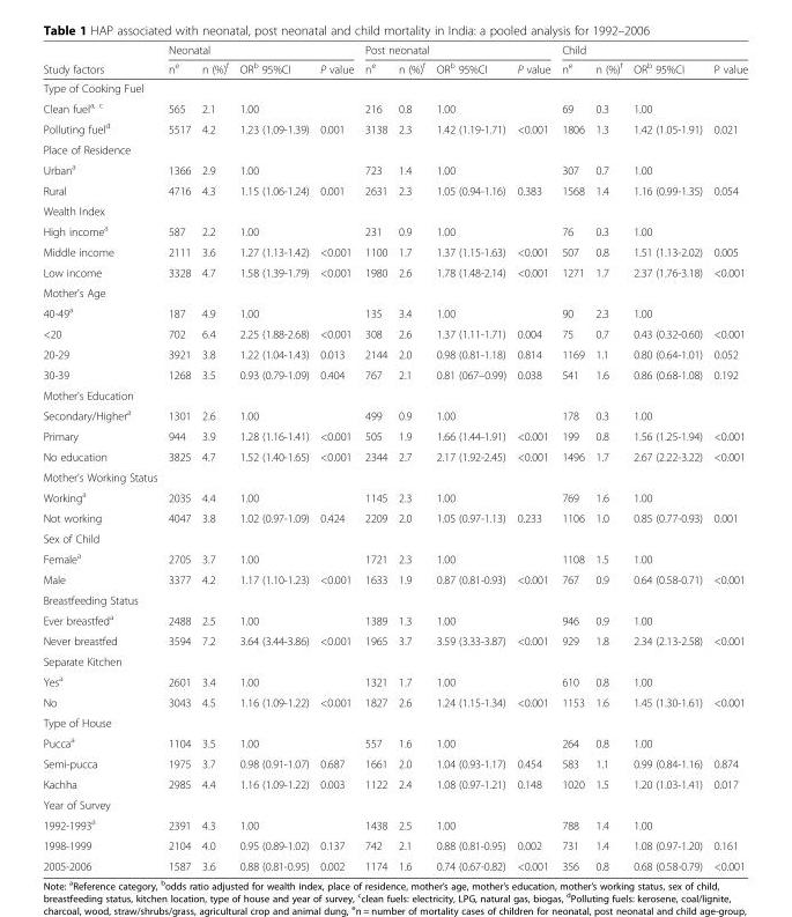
<table><thead><tr><td rowspan="2">Study factors</td><td colspan="4">Neonatal</td><td colspan="4">Post neonatal</td><td colspan="4">Child</td></tr><tr><td>n<sup>e</sup></td><td>n (%)<sup>f</sup></td><td>OR<sup>b</sup> 95%CI</td><td>P value</td><td>n<sup>e</sup></td><td>n (%)<sup>f</sup></td><td>OR<sup>b</sup> 95%CI</td><td>P value</td><td>n<sup>e</sup></td><td>n (%)<sup>f</sup></td><td>OR<sup>b</sup> 95%CI</td><td>P value</td></tr></thead><tbody><tr><td colspan="13">Type of Cooking Fuel</td></tr><tr><td>Clean fuel<sup>a, c</sup></td><td>565</td><td>2.1</td><td>1.00</td><td></td><td>216</td><td>0.8</td><td>1.00</td><td></td><td>69</td><td>0.3</td><td>1.00</td><td></td></tr><tr><td>Polluting fuel<sup>d</sup></td><td>5517</td><td>4.2</td><td>1.23 (1.09-1.39)</td><td>0.001</td><td>3138</td><td>2.3</td><td>1.42 (1.19-1.71)</td><td>&lt;0.001</td><td>1806</td><td>1.3</td><td>1.42 (1.05-1.91)</td><td>0.021</td></tr><tr><td colspan="13">Place of Residence</td></tr><tr><td>Urban<sup>a</sup></td><td>1366</td><td>2.9</td><td>1.00</td><td></td><td>723</td><td>1.4</td><td>1.00</td><td></td><td>307</td><td>0.7</td><td>1.00</td><td></td></tr><tr><td>Rural</td><td>4716</td><td>4.3</td><td>1.15 (1.06-1.24)</td><td>0.001</td><td>2631</td><td>2.3</td><td>1.05 (0.94-1.16)</td><td>0.383</td><td>1568</td><td>1.4</td><td>1.16 (0.99-1.35)</td><td>0.054</td></tr><tr><td colspan="13">Wealth Index</td></tr><tr><td>High income<sup>a</sup></td><td>587</td><td>2.2</td><td>1.00</td><td></td><td>231</td><td>0.9</td><td>1.00</td><td></td><td>76</td><td>0.3</td><td>1.00</td><td></td></tr><tr><td>Middle income</td><td>2111</td><td>3.6</td><td>1.27 (1.13-1.42)</td><td>&lt;0.001</td><td>1100</td><td>1.7</td><td>1.37 (1.15-1.63)</td><td>&lt;0.001</td><td>507</td><td>0.8</td><td>1.51 (1.13-2.02)</td><td>0.005</td></tr><tr><td>Low income</td><td>3328</td><td>4.7</td><td>1.58 (1.39-1.79)</td><td>&lt;0.001</td><td>1980</td><td>2.6</td><td>1.78 (1.48-2.14)</td><td>&lt;0.001</td><td>1271</td><td>1.7</td><td>2.37 (1.76-3.18)</td><td>&lt;0.001</td></tr><tr><td colspan="13">Mother&#x27;s Age</td></tr><tr><td>40-49<sup>a</sup></td><td>187</td><td>4.9</td><td>1.00</td><td></td><td>135</td><td>3.4</td><td>1.00</td><td></td><td>90</td><td>2.3</td><td>1.00</td><td></td></tr><tr><td>&lt;20</td><td>702</td><td>6.4</td><td>2.25 (1.88-2.68)</td><td>&lt;0.001</td><td>308</td><td>2.6</td><td>1.37 (1.11-1.71)</td><td>0.004</td><td>75</td><td>0.7</td><td>0.43 (0.32-0.60)</td><td>&lt;0.001</td></tr><tr><td>20-29</td><td>3921</td><td>3.8</td><td>1.22 (1.04-1.43)</td><td>0.013</td><td>2144</td><td>2.0</td><td>0.98 (0.81-1.18)</td><td>0.814</td><td>1169</td><td>1.1</td><td>0.80 (0.64-1.01)</td><td>0.052</td></tr><tr><td>30-39</td><td>1268</td><td>3.5</td><td>0.93 (0.79-1.09)</td><td>0.404</td><td>767</td><td>2.1</td><td>0.81 (067–0.99)</td><td>0.038</td><td>541</td><td>1.6</td><td>0.86 (0.68-1.08)</td><td>0.192</td></tr><tr><td colspan="13">Mother&#x27;s Education</td></tr><tr><td>Secondary/Higher<sup>a</sup></td><td>1301</td><td>2.6</td><td>1.00</td><td></td><td>499</td><td>0.9</td><td>1.00</td><td></td><td>178</td><td>0.3</td><td>1.00</td><td></td></tr><tr><td>Primary</td><td>944</td><td>3.9</td><td>1.28 (1.16-1.41)</td><td>&lt;0.001</td><td>505</td><td>1.9</td><td>1.66 (1.44-1.91)</td><td>&lt;0.001</td><td>199</td><td>0.8</td><td>1.56 (1.25-1.94)</td><td>&lt;0.001</td></tr><tr><td>No education</td><td>3825</td><td>4.7</td><td>1.52 (1.40-1.65)</td><td>&lt;0.001</td><td>2344</td><td>2.7</td><td>2.17 (1.92-2.45)</td><td>&lt;0.001</td><td>1496</td><td>1.7</td><td>2.67 (2.22-3.22)</td><td>&lt;0.001</td></tr><tr><td colspan="13">Mother&#x27;s Working Status</td></tr><tr><td>Working<sup>a</sup></td><td>2035</td><td>4.4</td><td>1.00</td><td></td><td>1145</td><td>2.3</td><td>1.00</td><td></td><td>769</td><td>1.6</td><td>1.00</td><td></td></tr><tr><td>Not working</td><td>4047</td><td>3.8</td><td>1.02 (0.97-1.09)</td><td>0.424</td><td>2209</td><td>2.0</td><td>1.05 (0.97-1.13)</td><td>0.233</td><td>1106</td><td>1.0</td><td>0.85 (0.77-0.93)</td><td>0.001</td></tr><tr><td colspan="13">Sex of Child</td></tr><tr><td>Female<sup>a</sup></td><td>2705</td><td>3.7</td><td>1.00</td><td></td><td>1721</td><td>2.3</td><td>1.00</td><td></td><td>1108</td><td>1.5</td><td>1.00</td><td></td></tr><tr><td>Male</td><td>3377</td><td>4.2</td><td>1.17 (1.10-1.23)</td><td>&lt;0.001</td><td>1633</td><td>1.9</td><td>0.87 (0.81-0.93)</td><td>&lt;0.001</td><td>767</td><td>0.9</td><td>0.64 (0.58-0.71)</td><td>&lt;0.001</td></tr><tr><td colspan="13">Breastfeeding Status</td></tr><tr><td>Ever breastfed<sup>a</sup></td><td>2488</td><td>2.5</td><td>1.00</td><td></td><td>1389</td><td>1.3</td><td>1.00</td><td></td><td>946</td><td>0.9</td><td>1.00</td><td></td></tr><tr><td>Never breastfed</td><td>3594</td><td>7.2</td><td>3.64 (3.44-3.86)</td><td>&lt;0.001</td><td>1965</td><td>3.7</td><td>3.59 (3.33-3.87)</td><td>&lt;0.001</td><td>929</td><td>1.8</td><td>2.34 (2.13-2.58)</td><td>&lt;0.001</td></tr><tr><td colspan="13">Separate Kitchen</td></tr><tr><td>Yes<sup>a</sup></td><td>2601</td><td>3.4</td><td>1.00</td><td></td><td>1321</td><td>1.7</td><td>1.00</td><td></td><td>610</td><td>0.8</td><td>1.00</td><td></td></tr><tr><td>No</td><td>3043</td><td>4.5</td><td>1.16 (1.09-1.22)</td><td>&lt;0.001</td><td>1827</td><td>2.6</td><td>1.24 (1.15-1.34)</td><td>&lt;0.001</td><td>1153</td><td>1.6</td><td>1.45 (1.30-1.61)</td><td>&lt;0.001</td></tr><tr><td colspan="13">Type of House</td></tr><tr><td>Pucca<sup>a</sup></td><td>1104</td><td>3.5</td><td>1.00</td><td></td><td>557</td><td>1.6</td><td>1.00</td><td></td><td>264</td><td>0.8</td><td>1.00</td><td></td></tr><tr><td>Semi-pucca</td><td>1975</td><td>3.7</td><td>0.98 (0.91-1.07)</td><td>0.687</td><td>1661</td><td>2.0</td><td>1.04 (0.93-1.17)</td><td>0.454</td><td>583</td><td>1.1</td><td>0.99 (0.84-1.16)</td><td>0.874</td></tr><tr><td>Kachha</td><td>2985</td><td>4.4</td><td>1.16 (1.09-1.22)</td><td>0.003</td><td>1122</td><td>2.4</td><td>1.08 (0.97-1.21)</td><td>0.148</td><td>1020</td><td>1.5</td><td>1.20 (1.03-1.41)</td><td>0.017</td></tr><tr><td colspan="13">Year of Survey</td></tr><tr><td>1992-1993<sup>a</sup></td><td>2391</td><td>4.3</td><td>1.00</td><td></td><td>1438</td><td>2.5</td><td>1.00</td><td></td><td>788</td><td>1.4</td><td>1.00</td><td></td></tr><tr><td>1998-1999</td><td>2104</td><td>4.0</td><td>0.95 (0.89-1.02)</td><td>0.137</td><td>742</td><td>2.1</td><td>0.88 (0.81-0.95)</td><td>0.002</td><td>731</td><td>1.4</td><td>1.08 (0.97-1.20)</td><td>0.161</td></tr><tr><td>2005-2006</td><td>1587</td><td>3.6</td><td>0.88 (0.81-0.95)</td><td>0.002</td><td>1174</td><td>1.6</td><td>0.74 (0.67-0.82)</td><td>&lt;0.001</td><td>356</td><td>0.8</td><td>0.68 (0.58-0.79)</td><td>&lt;0.001</td></tr></tbody></table>